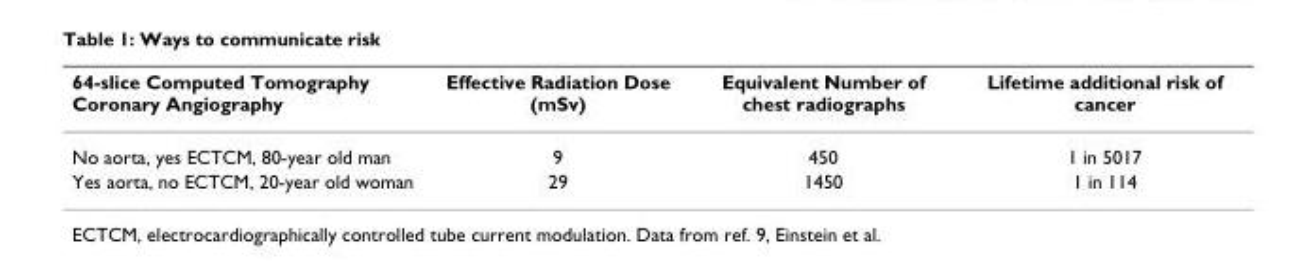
<table><thead><tr><td>64-slice Computed Tomography Coronary Angiography</td><td>Effective Radiation Dose (mSv)</td><td>Equivalent Number of chest radiographs</td><td>Lifetime additional risk of cancer</td></tr></thead><tbody><tr><td>No aorta, yes ECTCM, 80-year old man</td><td>9</td><td>450</td><td>1 in 5017</td></tr><tr><td>Yes aorta, no ECTCM, 20-year old woman</td><td>29</td><td>1450</td><td>1 in 114</td></tr></tbody></table>